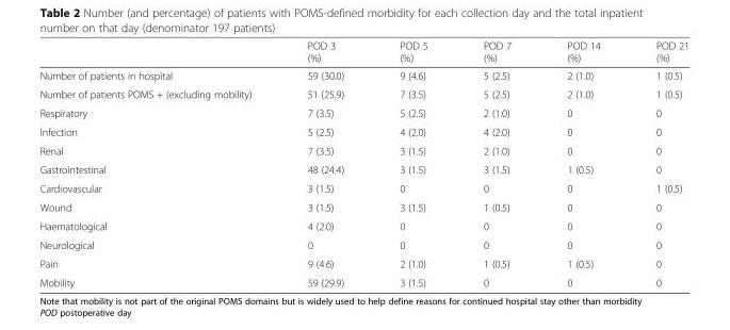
<table><thead><tr><td></td><td>POD 3 (%)</td><td>POD 5 (%)</td><td>POD 7 (%)</td><td>POD 14 (%)</td><td>POD 21 (%)</td></tr></thead><tbody><tr><td>Number of patients in hospital</td><td>59 (30.0)</td><td>9 (4.6)</td><td>5 (2.5)</td><td>2 (1.0)</td><td>1 (0.5)</td></tr><tr><td>Number of patients POMS + (excluding mobility)</td><td>51 (25.9)</td><td>7 (3.5)</td><td>5 (2.5)</td><td>2 (1.0)</td><td>1 (0.5)</td></tr><tr><td>Respiratory</td><td>7 (3.5)</td><td>5 (2.5)</td><td>2 (1.0)</td><td>0</td><td>0</td></tr><tr><td>Infection</td><td>5 (2.5)</td><td>4 (2.0)</td><td>4 (2.0)</td><td>0</td><td>0</td></tr><tr><td>Renal</td><td>7 (3.5)</td><td>3 (1.5)</td><td>2 (1.0)</td><td>0</td><td>0</td></tr><tr><td>Gastrointestinal</td><td>48 (24.4)</td><td>3 (1.5)</td><td>3 (1.5)</td><td>1 (0.5)</td><td>0</td></tr><tr><td>Cardiovascular</td><td>3 (1.5)</td><td>0</td><td>0</td><td>0</td><td>1 (0.5)</td></tr><tr><td>Wound</td><td>3 (1.5)</td><td>3 (1.5)</td><td>1 (0.5)</td><td>0</td><td>0</td></tr><tr><td>Haematological</td><td>4 (2.0)</td><td>0</td><td>0</td><td>0</td><td>0</td></tr><tr><td>Neurological</td><td>0</td><td>0</td><td>0</td><td>0</td><td>0</td></tr><tr><td>Pain</td><td>9 (4.6)</td><td>2 (1.0)</td><td>1 (0.5)</td><td>1 (0.5)</td><td>0</td></tr><tr><td>Mobility</td><td>59 (29.9)</td><td>3 (1.5)</td><td>0</td><td>0</td><td>0</td></tr></tbody></table>